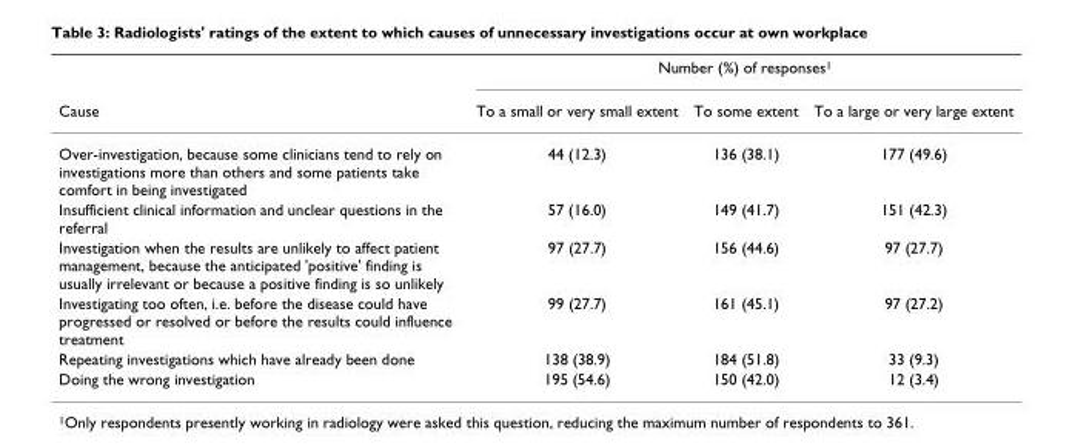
<table><thead><tr><td rowspan="2">Cause</td><td colspan="3">Number (%) of responses<sup>1</sup></td></tr><tr><td>To a small or very small extent</td><td>To some extent</td><td>To a large or very large extent</td></tr></thead><tbody><tr><td>Over-investigation, because some clinicians tend to rely on investigations more than others and some patients take comfort in being investigated</td><td>44 (12.3)</td><td>136 (38.1)</td><td>177 (49.6)</td></tr><tr><td>Insufficient clinical information and unclear questions in the referral</td><td>57 (16.0)</td><td>149 (41.7)</td><td>151 (42.3)</td></tr><tr><td>Investigation when the results are unlikely to affect patient management, because the anticipated &#x27;positive&#x27; finding is usually irrelevant or because a positive finding is so unlikely</td><td>97 (27.7)</td><td>156 (44.6)</td><td>97 (27.7)</td></tr><tr><td>Investigating too often, i.e. before the disease could have progressed or resolved or before the results could influence treatment</td><td>99 (27.7)</td><td>161 (45.1)</td><td>97 (27.2)</td></tr><tr><td>Repeating investigations which have already been done</td><td>138 (38.9)</td><td>184 (51.8)</td><td>33 (9.3)</td></tr><tr><td>Doing the wrong investigation</td><td>195 (54.6)</td><td>150 (42.0)</td><td>12 (3.4)</td></tr></tbody></table>